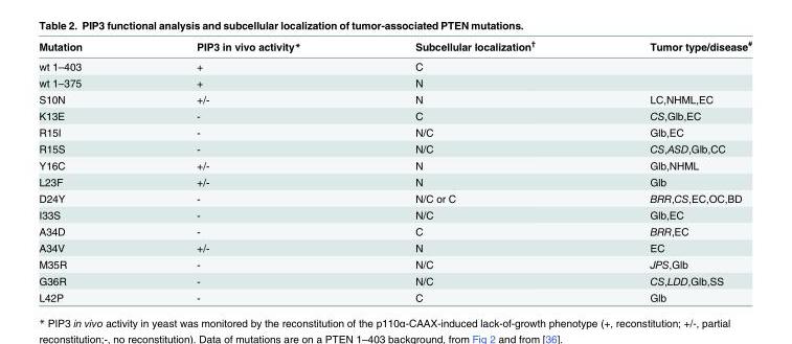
<table><thead><tr><td>Mutation</td><td>PIP3 in vivo activity*</td><td>Subcellular localization<sup>†</sup></td><td>Tumor type/disease<sup>#</sup></td></tr></thead><tbody><tr><td>wt 1–403</td><td>+</td><td>C</td><td></td></tr><tr><td>wt 1–375</td><td>+</td><td>N</td><td></td></tr><tr><td>S10N</td><td>+/-</td><td>N</td><td>LC,NHML,EC</td></tr><tr><td>K13E</td><td>-</td><td>C</td><td>CS,Glb,EC</td></tr><tr><td>R15I</td><td>-</td><td>N/C</td><td>Glb,EC</td></tr><tr><td>R15S</td><td>-</td><td>N/C</td><td>CS,ASD,Glb,CC</td></tr><tr><td>Y16C</td><td>+/-</td><td>N</td><td>Glb,NHML</td></tr><tr><td>L23F</td><td>+/-</td><td>N</td><td>Glb</td></tr><tr><td>D24Y</td><td>-</td><td>N/C or C</td><td>BRR,CS,EC,OC,BD</td></tr><tr><td>I33S</td><td>-</td><td>N/C</td><td>Glb,EC</td></tr><tr><td>A34D</td><td>-</td><td>C</td><td>BRR,EC</td></tr><tr><td>A34V</td><td>+/-</td><td>N</td><td>EC</td></tr><tr><td>M35R</td><td>-</td><td>N/C</td><td>JPS,Glb</td></tr><tr><td>G36R</td><td>-</td><td>N/C</td><td>CS,LDD,Glb,SS</td></tr><tr><td>L42P</td><td>-</td><td>C</td><td>Glb</td></tr></tbody></table>